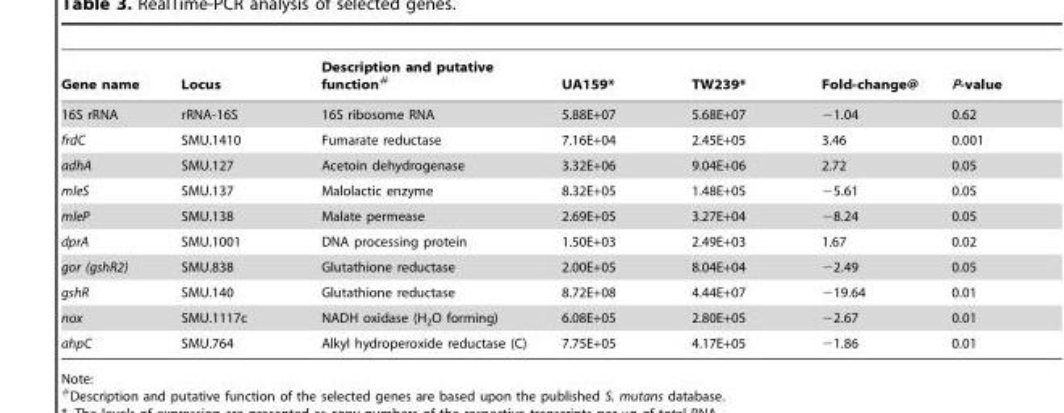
<table><thead><tr><td>Gene name</td><td>Locus</td><td>Description and putative function#</td><td>UA159*</td><td>TW239*</td><td>Fold-change@</td><td>P-value</td></tr></thead><tbody><tr><td>16S rRNA</td><td>rRNA-16S</td><td>16S ribosome RNA</td><td>5.88E+07</td><td>5.68E+07</td><td>−1.04</td><td>0.62</td></tr><tr><td>frdC</td><td>SMU.1410</td><td>Fumarate reductase</td><td>7.16E+04</td><td>2.45E+05</td><td>3.46</td><td>0.001</td></tr><tr><td>adhA</td><td>SMU.127</td><td>Acetoin dehydrogenase</td><td>3.32E+06</td><td>9.04E+06</td><td>2.72</td><td>0.05</td></tr><tr><td>mleS</td><td>SMU.137</td><td>Malolactic enzyme</td><td>8.32E+05</td><td>1.48E+05</td><td>−5.61</td><td>0.05</td></tr><tr><td>mleP</td><td>SMU.138</td><td>Malate permease</td><td>2.69E+05</td><td>3.27E+04</td><td>−8.24</td><td>0.05</td></tr><tr><td>dprA</td><td>SMU.1001</td><td>DNA processing protein</td><td>1.50E+03</td><td>2.49E+03</td><td>1.67</td><td>0.02</td></tr><tr><td>gor (gshR2)</td><td>SMU.838</td><td>Glutathione reductase</td><td>2.00E+05</td><td>8.04E+04</td><td>−2.49</td><td>0.05</td></tr><tr><td>gshR</td><td>SMU.140</td><td>Glutathione reductase</td><td>8.72E+08</td><td>4.44E+07</td><td>−19.64</td><td>0.01</td></tr><tr><td>nox</td><td>SMU.1117c</td><td>NADH oxidase (H<sub>2</sub>O forming)</td><td>6.08E+05</td><td>2.80E+05</td><td>−2.67</td><td>0.01</td></tr><tr><td>ahpC</td><td>SMU.764</td><td>Alkyl hydroperoxide reductase (C)</td><td>7.75E+05</td><td>4.17E+05</td><td>−1.86</td><td>0.01</td></tr></tbody></table>